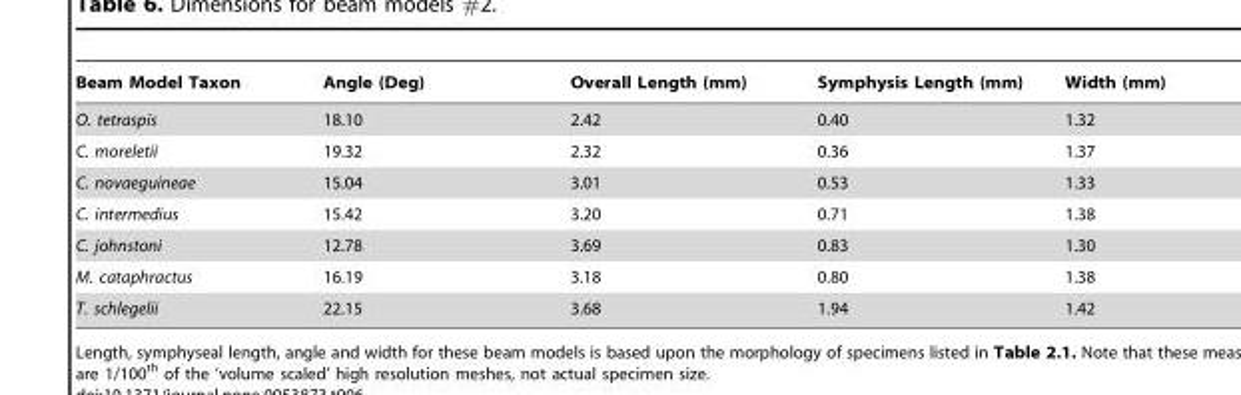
<table><thead><tr><td>Beam Model Taxon</td><td>Angle (Deg)</td><td>Overall Length (mm)</td><td>Symphysis Length (mm)</td><td>Width (mm)</td></tr></thead><tbody><tr><td>O. tetraspis</td><td>18.10</td><td>2.42</td><td>0.40</td><td>1.32</td></tr><tr><td>C. moreletii</td><td>19.32</td><td>2.32</td><td>0.36</td><td>1.37</td></tr><tr><td>C. novaeguineae</td><td>15.04</td><td>3.01</td><td>0.53</td><td>1.33</td></tr><tr><td>C. intermedius</td><td>15.42</td><td>3.20</td><td>0.71</td><td>1.38</td></tr><tr><td>C. johnstoni</td><td>12.78</td><td>3.69</td><td>0.83</td><td>1.30</td></tr><tr><td>M. cataphractus</td><td>16.19</td><td>3.18</td><td>0.80</td><td>1.38</td></tr><tr><td>T. schlegelii</td><td>22.15</td><td>3.68</td><td>1.94</td><td>1.42</td></tr></tbody></table>